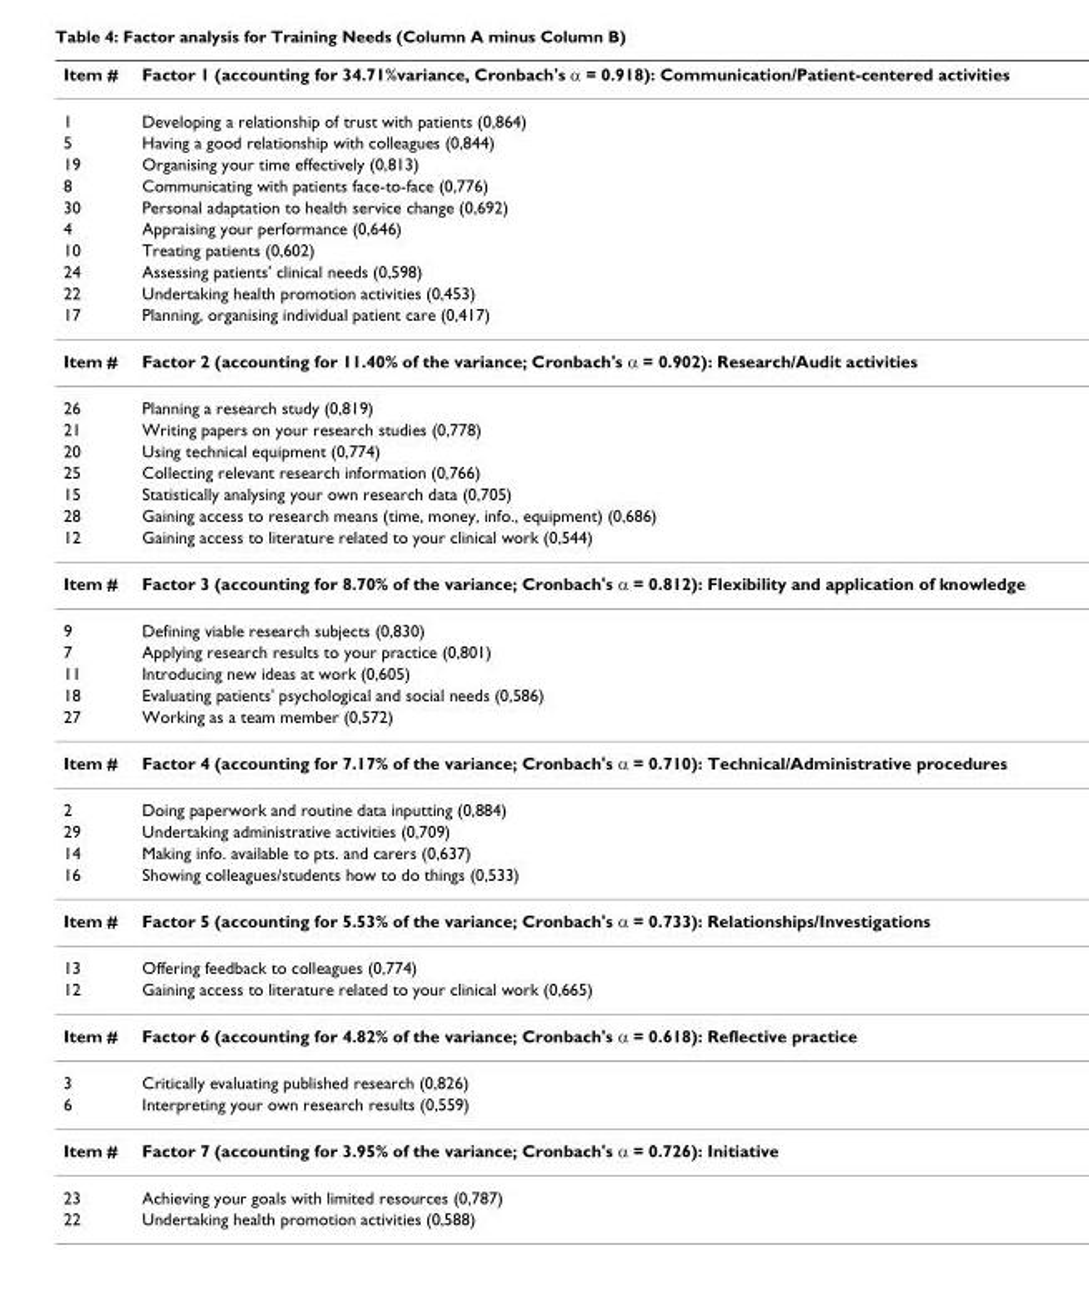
<table><thead><tr><td>Item #</td><td>Factor 1 (accounting for 34.71%variance, Cronbach&#x27;s α = 0.918): Communication/Patient-centered activities</td></tr></thead><tbody><tr><td>1</td><td>Developing a relationship of trust with patients (0,864)</td></tr><tr><td>5</td><td>Having a good relationship with colleagues (0,844)</td></tr><tr><td>19</td><td>Organising your time effectively (0,813)</td></tr><tr><td>8</td><td>Communicating with patients face-to-face (0,776)</td></tr><tr><td>30</td><td>Personal adaptation to health service change (0,692)</td></tr><tr><td>4</td><td>Appraising your performance (0,646)</td></tr><tr><td>10</td><td>Treating patients (0,602)</td></tr><tr><td>24</td><td>Assessing patients&#x27; clinical needs (0,598)</td></tr><tr><td>22</td><td>Undertaking health promotion activities (0,453)</td></tr><tr><td>17</td><td>Planning, organising individual patient care (0,417)</td></tr><tr><td>Item #</td><td>Factor 2 (accounting for 11.40% of the variance; Cronbach&#x27;s α = 0.902): Research/Audit activities</td></tr><tr><td>26</td><td>Planning a research study (0,819)</td></tr><tr><td>21</td><td>Writing papers on your research studies (0,778)</td></tr><tr><td>20</td><td>Using technical equipment (0,774)</td></tr><tr><td>25</td><td>Collecting relevant research information (0,766)</td></tr><tr><td>15</td><td>Statistically analysing your own research data (0,705)</td></tr><tr><td>28</td><td>Gaining access to research means (time, money, info., equipment) (0,686)</td></tr><tr><td>12</td><td>Gaining access to literature related to your clinical work (0,544)</td></tr><tr><td>Item #</td><td>Factor 3 (accounting for 8.70% of the variance; Cronbach&#x27;s α = 0.812): Flexibility and application of knowledge</td></tr><tr><td>9</td><td>Defining viable research subjects (0,830)</td></tr><tr><td>7</td><td>Applying research results to your practice (0,801)</td></tr><tr><td>11</td><td>Introducing new ideas at work (0,605)</td></tr><tr><td>18</td><td>Evaluating patients&#x27; psychological and social needs (0,586)</td></tr><tr><td>27</td><td>Working as a team member (0,572)</td></tr><tr><td>Item #</td><td>Factor 4 (accounting for 7.17% of the variance; Cronbach&#x27;s α = 0.710): Technical/Administrative procedures</td></tr><tr><td>2</td><td>Doing paperwork and routine data inputting (0,884)</td></tr><tr><td>29</td><td>Undertaking administrative activities (0,709)</td></tr><tr><td>14</td><td>Making info. available to pts. and carers (0,637)</td></tr><tr><td>16</td><td>Showing colleagues/students how to do things (0,533)</td></tr><tr><td>Item #</td><td>Factor 5 (accounting for 5.53% of the variance; Cronbach&#x27;s α = 0.733): Relationships/Investigations</td></tr><tr><td>13</td><td>Offering feedback to colleagues (0,774)</td></tr><tr><td>12</td><td>Gaining access to literature related to your clinical work (0,665)</td></tr><tr><td>Item #</td><td>Factor 6 (accounting for 4.82% of the variance; Cronbach&#x27;s α = 0.618): Reflective practice</td></tr><tr><td>3</td><td>Critically evaluating published research (0,826)</td></tr><tr><td>6</td><td>Interpreting your own research results (0,559)</td></tr><tr><td>Item #</td><td>Factor 7 (accounting for 3.95% of the variance; Cronbach&#x27;s α = 0.726): Initiative</td></tr><tr><td>23</td><td>Achieving your goals with limited resources (0,787)</td></tr><tr><td>22</td><td>Undertaking health promotion activities (0,588)</td></tr></tbody></table>